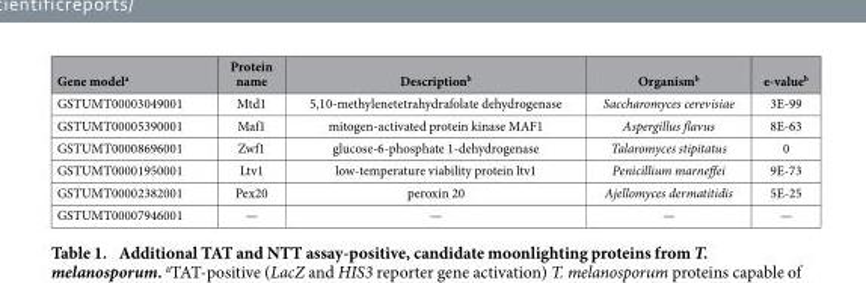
<table><thead><tr><td>Gene model<sup>a</sup></td><td>Protein name</td><td>Description<sup>b</sup></td><td>Organism<sup>b</sup></td><td>e-value<sup>b</sup></td></tr></thead><tbody><tr><td>GSTUMT00003049001</td><td>Mtd1</td><td>5,10-methylenetetrahydrafolate dehydrogenase</td><td>Saccharomyces cerevisiae</td><td>3E-99</td></tr><tr><td>GSTUMT00005390001</td><td>Maf1</td><td>mitogen-activated protein kinase MAF1</td><td>Aspergillus flavus</td><td>8E-63</td></tr><tr><td>GSTUMT00008696001</td><td>Zwf1</td><td>glucose-6-phosphate 1-dehydrogenase</td><td>Talaromyces stipitatus</td><td>0</td></tr><tr><td>GSTUMT00001950001</td><td>Ltv1</td><td>low-temperature viability protein ltv1</td><td>Penicillium marneffei</td><td>9E-73</td></tr><tr><td>GSTUMT00002382001</td><td>Pex20</td><td>peroxin 20</td><td>Ajellomyces dermatitidis</td><td>5E-25</td></tr><tr><td>GSTUMT00007946001</td><td>—</td><td>—</td><td>—</td><td>—</td></tr></tbody></table>